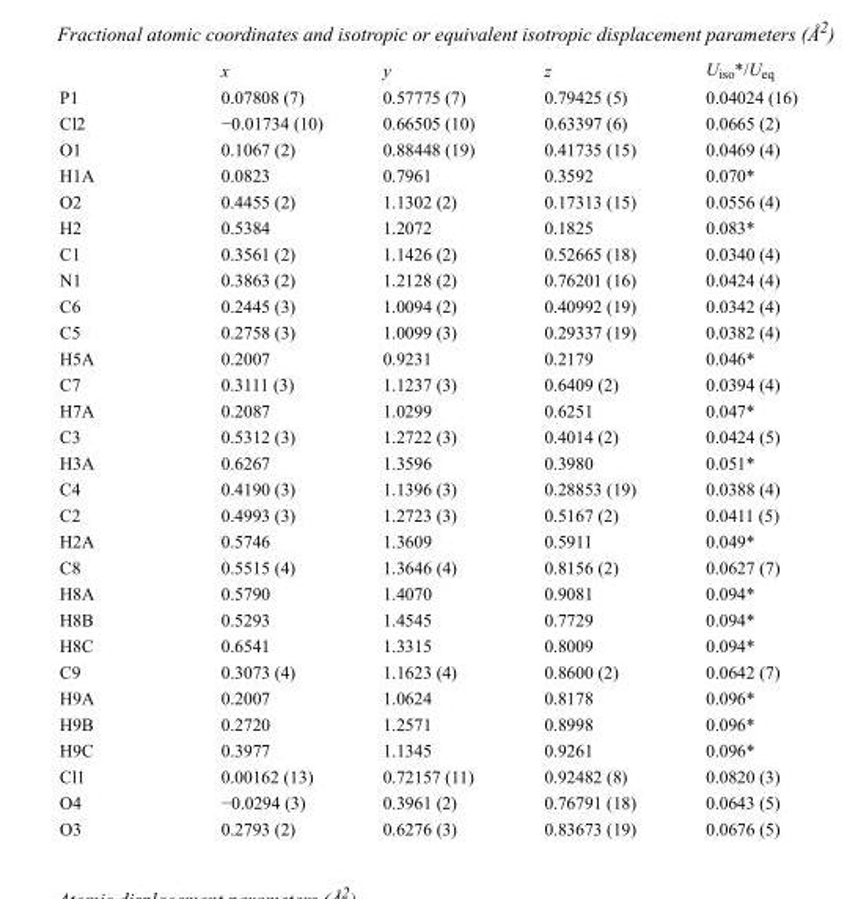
<table><thead><tr><td></td><td>x</td><td>y</td><td>z</td><td>U<sub>iso</sub>*/U<sub>eq</sub></td></tr></thead><tbody><tr><td>P1</td><td>0.07808 (7)</td><td>0.57775 (7)</td><td>0.79425 (5)</td><td>0.04024 (16)</td></tr><tr><td>Cl2</td><td>−0.01734 (10)</td><td>0.66505 (10)</td><td>0.63397 (6)</td><td>0.0665 (2)</td></tr><tr><td>O1</td><td>0.1067 (2)</td><td>0.88448 (19)</td><td>0.41735 (15)</td><td>0.0469 (4)</td></tr><tr><td>H1A</td><td>0.0823</td><td>0.7961</td><td>0.3592</td><td>0.070*</td></tr><tr><td>O2</td><td>0.4455 (2)</td><td>1.1302 (2)</td><td>0.17313 (15)</td><td>0.0556 (4)</td></tr><tr><td>H2</td><td>0.5384</td><td>1.2072</td><td>0.1825</td><td>0.083*</td></tr><tr><td>C1</td><td>0.3561 (2)</td><td>1.1426 (2)</td><td>0.52665 (18)</td><td>0.0340 (4)</td></tr><tr><td>N1</td><td>0.3863 (2)</td><td>1.2128 (2)</td><td>0.76201 (16)</td><td>0.0424 (4)</td></tr><tr><td>C6</td><td>0.2445 (3)</td><td>1.0094 (2)</td><td>0.40992 (19)</td><td>0.0342 (4)</td></tr><tr><td>C5</td><td>0.2758 (3)</td><td>1.0099 (3)</td><td>0.29337 (19)</td><td>0.0382 (4)</td></tr><tr><td>H5A</td><td>0.2007</td><td>0.9231</td><td>0.2179</td><td>0.046*</td></tr><tr><td>C7</td><td>0.3111 (3)</td><td>1.1237 (3)</td><td>0.6409 (2)</td><td>0.0394 (4)</td></tr><tr><td>H7A</td><td>0.2087</td><td>1.0299</td><td>0.6251</td><td>0.047*</td></tr><tr><td>C3</td><td>0.5312 (3)</td><td>1.2722 (3)</td><td>0.4014 (2)</td><td>0.0424 (5)</td></tr><tr><td>H3A</td><td>0.6267</td><td>1.3596</td><td>0.3980</td><td>0.051*</td></tr><tr><td>C4</td><td>0.4190 (3)</td><td>1.1396 (3)</td><td>0.28853 (19)</td><td>0.0388 (4)</td></tr><tr><td>C2</td><td>0.4993 (3)</td><td>1.2723 (3)</td><td>0.5167 (2)</td><td>0.0411 (5)</td></tr><tr><td>H2A</td><td>0.5746</td><td>1.3609</td><td>0.5911</td><td>0.049*</td></tr><tr><td>C8</td><td>0.5515 (4)</td><td>1.3646 (4)</td><td>0.8156 (2)</td><td>0.0627 (7)</td></tr><tr><td>H8A</td><td>0.5790</td><td>1.4070</td><td>0.9081</td><td>0.094*</td></tr><tr><td>H8B</td><td>0.5293</td><td>1.4545</td><td>0.7729</td><td>0.094*</td></tr><tr><td>H8C</td><td>0.6541</td><td>1.3315</td><td>0.8009</td><td>0.094*</td></tr><tr><td>C9</td><td>0.3073 (4)</td><td>1.1623 (4)</td><td>0.8600 (2)</td><td>0.0642 (7)</td></tr><tr><td>H9A</td><td>0.2007</td><td>1.0624</td><td>0.8178</td><td>0.096*</td></tr><tr><td>H9B</td><td>0.2720</td><td>1.2571</td><td>0.8998</td><td>0.096*</td></tr><tr><td>H9C</td><td>0.3977</td><td>1.1345</td><td>0.9261</td><td>0.096*</td></tr><tr><td>Cl1</td><td>0.00162 (13)</td><td>0.72157 (11)</td><td>0.92482 (8)</td><td>0.0820 (3)</td></tr><tr><td>O4</td><td>−0.0294 (3)</td><td>0.3961 (2)</td><td>0.76791 (18)</td><td>0.0643 (5)</td></tr><tr><td>O3</td><td>0.2793 (2)</td><td>0.6276 (3)</td><td>0.83673 (19)</td><td>0.0676 (5)</td></tr></tbody></table>